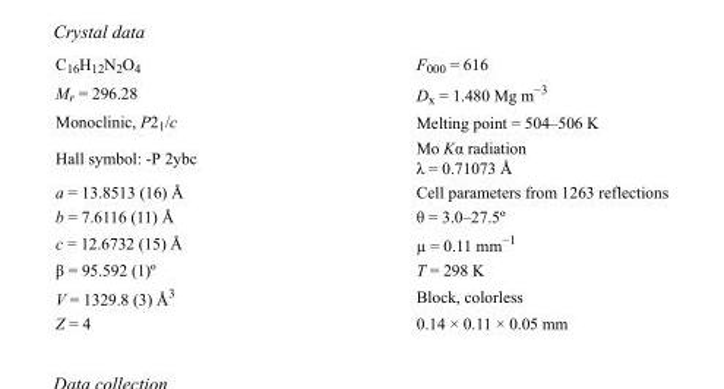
<table><tbody><tr><td>C<sub>16</sub>H<sub>12</sub>N<sub>2</sub>O<sub>4</sub></td><td>F000 = 616</td></tr><tr><td>M<sub>r</sub> = 296.28</td><td>D<sub>x</sub> = 1.480 Mg m<sup>−3</sup></td></tr><tr><td>Monoclinic, P2<sub>1</sub>/c</td><td>Melting point = 504–506 K</td></tr><tr><td>Hall symbol: -P 2ybc</td><td>Mo Kα radiation λ = 0.71073 Å</td></tr><tr><td>a = 13.8513 (16) Å</td><td>Cell parameters from 1263 reflections</td></tr><tr><td>b = 7.6116 (11) Å</td><td>θ = 3.0–27.5º</td></tr><tr><td>c = 12.6732 (15) Å</td><td>µ = 0.11 mm<sup>−1</sup></td></tr><tr><td>β = 95.592 (1)º</td><td>T = 298 K</td></tr><tr><td>V = 1329.8 (3) Å<sup>3</sup></td><td>Block, colorless</td></tr><tr><td>Z = 4</td><td>0.14 × 0.11 × 0.05 mm</td></tr></tbody></table>